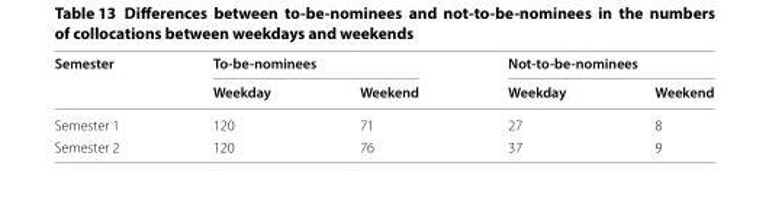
<table><thead><tr><td rowspan="2">Semester</td><td colspan="2">To-be-nominees</td><td colspan="2">Not-to-be-nominees</td></tr><tr><td>Weekday</td><td>Weekend</td><td>Weekday</td><td>Weekend</td></tr></thead><tbody><tr><td>Semester 1</td><td>120</td><td>71</td><td>27</td><td>8</td></tr><tr><td>Semester 2</td><td>120</td><td>76</td><td>37</td><td>9</td></tr></tbody></table>